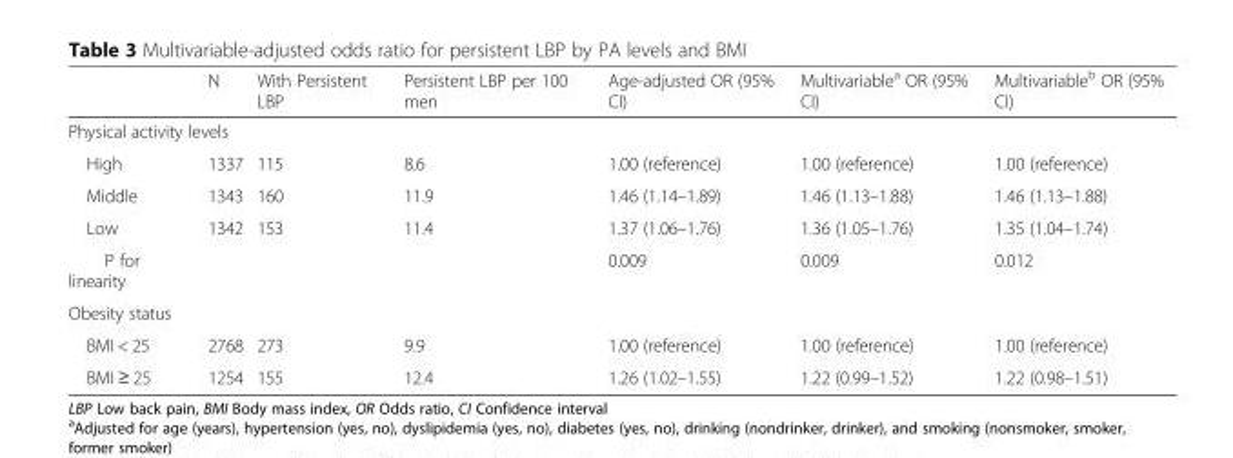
<table><thead><tr><td></td><td>N</td><td>With Persistent LBP</td><td>Persistent LBP per 100 men</td><td>Age-adjusted OR (95% CI)</td><td>Multivariable<sup>a</sup> OR (95% CI)</td><td>Multivariable<sup>b</sup> OR (95% CI)</td></tr></thead><tbody><tr><td colspan="7">Physical activity levels</td></tr><tr><td>High</td><td>1337</td><td>115</td><td>8.6</td><td>1.00 (reference)</td><td>1.00 (reference)</td><td>1.00 (reference)</td></tr><tr><td>Middle</td><td>1343</td><td>160</td><td>11.9</td><td>1.46 (1.14–1.89)</td><td>1.46 (1.13–1.88)</td><td>1.46 (1.13–1.88)</td></tr><tr><td>Low</td><td>1342</td><td>153</td><td>11.4</td><td>1.37 (1.06–1.76)</td><td>1.36 (1.05–1.76)</td><td>1.35 (1.04–1.74)</td></tr><tr><td>P for linearity</td><td></td><td></td><td></td><td>0.009</td><td>0.009</td><td>0.012</td></tr><tr><td colspan="7">Obesity status</td></tr><tr><td>BMI &lt; 25</td><td>2768</td><td>273</td><td>9.9</td><td>1.00 (reference)</td><td>1.00 (reference)</td><td>1.00 (reference)</td></tr><tr><td>BMI ≥ 25</td><td>1254</td><td>155</td><td>12.4</td><td>1.26 (1.02–1.55)</td><td>1.22 (0.99–1.52)</td><td>1.22 (0.98–1.51)</td></tr></tbody></table>